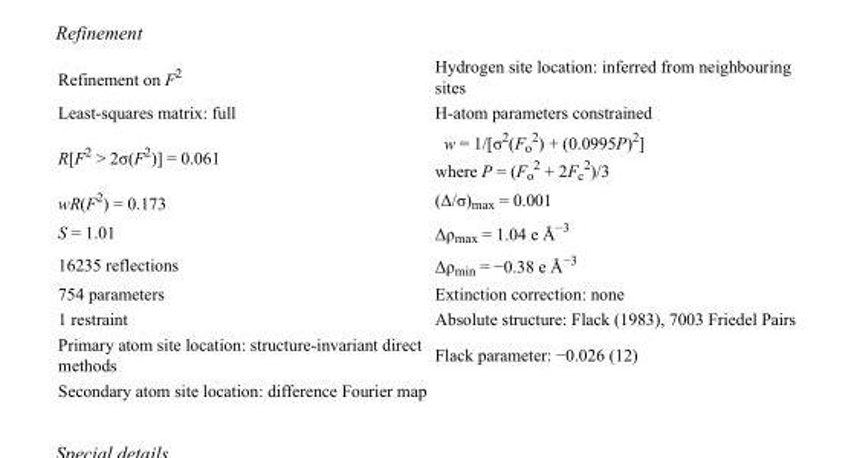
<table><tbody><tr><td>Refinement on F<sup>2</sup></td><td>Hydrogen site location: inferred from neighbouring sites</td></tr><tr><td>Least-squares matrix: full</td><td>H-atom parameters constrained</td></tr><tr><td>R[F<sup>2</sup> &gt; 2σ(F<sup>2</sup>)] = 0.061</td><td>w = 1/[σ<sup>2</sup>(F<sub>o</sub> <sup>2</sup>) + (0.0995P)<sup>2</sup>] where P = (F<sub>o</sub> <sup>2</sup> + 2F<sub>c</sub> <sup>2</sup>)/3</td></tr><tr><td>wR(F<sup>2</sup>) = 0.173</td><td>(Δ/σ)<sub>max</sub> = 0.001</td></tr><tr><td>S = 1.01</td><td>Δρ<sub>max</sub> = 1.04 e Å<sup>−3</sup></td></tr><tr><td>16235 reflections</td><td>Δρ<sub>min</sub> = −0.38 e Å<sup>−3</sup></td></tr><tr><td>754 parameters</td><td>Extinction correction: none</td></tr><tr><td>1 restraint</td><td>Absolute structure: Flack (1983), 7003 Friedel Pairs</td></tr><tr><td>Primary atom site location: structure-invariant direct methods</td><td>Flack parameter: −0.026 (12)</td></tr><tr><td>Secondary atom site location: difference Fourier map</td><td></td></tr></tbody></table>